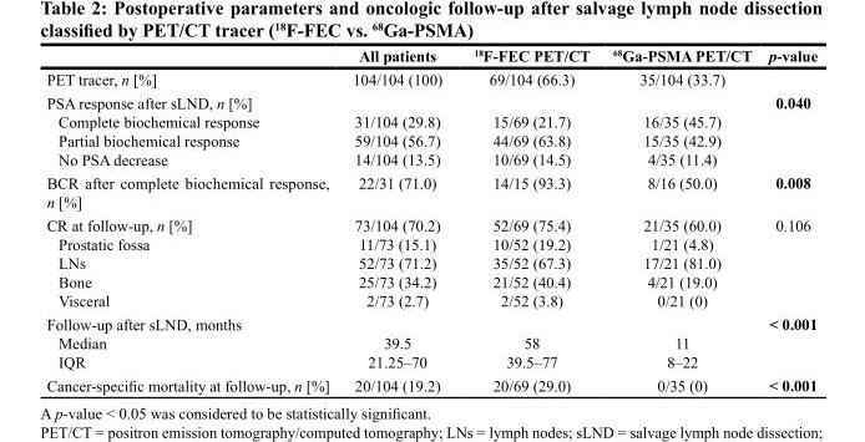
<table><thead><tr><td></td><td>All patients</td><td><sup>18</sup>F-FEC PET/CT</td><td><sup>68</sup>Ga-PSMA PET/CT</td><td>p-value</td></tr></thead><tbody><tr><td>PET tracer, n [%]</td><td>104/104 (100)</td><td>69/104 (66.3)</td><td>35/104 (33.7)</td><td></td></tr><tr><td>PSA response after sLND, n [%]</td><td></td><td></td><td></td><td>0.040</td></tr><tr><td>Complete biochemical response</td><td>31/104 (29.8)</td><td>15/69 (21.7)</td><td>16/35 (45.7)</td><td></td></tr><tr><td>Partial biochemical response</td><td>59/104 (56.7)</td><td>44/69 (63.8)</td><td>15/35 (42.9)</td><td></td></tr><tr><td>No PSA decrease</td><td>14/104 (13.5)</td><td>10/69 (14.5)</td><td>4/35 (11.4)</td><td></td></tr><tr><td>BCR after complete biochemical response, n [%]</td><td>22/31 (71.0)</td><td>14/15 (93.3)</td><td>8/16 (50.0)</td><td>0.008</td></tr><tr><td>CR at follow-up, n [%]</td><td>73/104 (70.2)</td><td>52/69 (75.4)</td><td>21/35 (60.0)</td><td>0.106</td></tr><tr><td>Prostatic fossa</td><td>11/73 (15.1)</td><td>10/52 (19.2)</td><td>1/21 (4.8)</td><td></td></tr><tr><td>LNs</td><td>52/73 (71.2)</td><td>35/52 (67.3)</td><td>17/21 (81.0)</td><td></td></tr><tr><td>Bone</td><td>25/73 (34.2)</td><td>21/52 (40.4)</td><td>4/21 (19.0)</td><td></td></tr><tr><td>Visceral</td><td>2/73 (2.7)</td><td>2/52 (3.8)</td><td>0/21 (0)</td><td></td></tr><tr><td>Follow-up after sLND, months</td><td></td><td></td><td></td><td>&lt; 0.001</td></tr><tr><td>Median</td><td>39.5</td><td>58</td><td>11</td><td></td></tr><tr><td>IQR</td><td>21.25–70</td><td>39.5–77</td><td>8–22</td><td></td></tr><tr><td>Cancer-specific mortality at follow-up, n [%]</td><td>20/104 (19.2)</td><td>20/69 (29.0)</td><td>0/35 (0)</td><td>&lt; 0.001</td></tr></tbody></table>